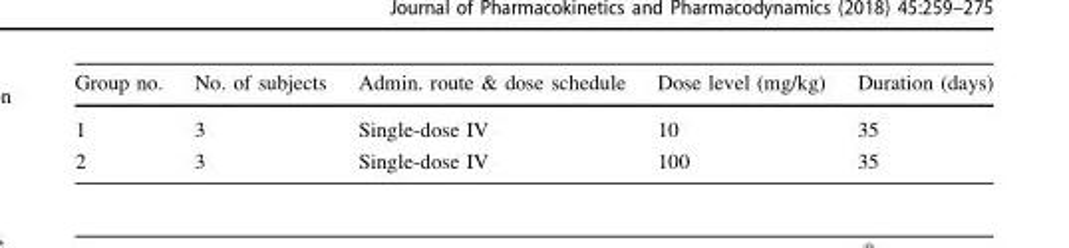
<table><thead><tr><td>Group no.</td><td>No. of subjects</td><td>Admin. route &amp; dose schedule</td><td>Dose level (mg/kg)</td><td>Duration (days)</td></tr></thead><tbody><tr><td>1</td><td>3</td><td>Single-dose IV</td><td>10</td><td>35</td></tr><tr><td>2</td><td>3</td><td>Single-dose IV</td><td>100</td><td>35</td></tr></tbody></table>